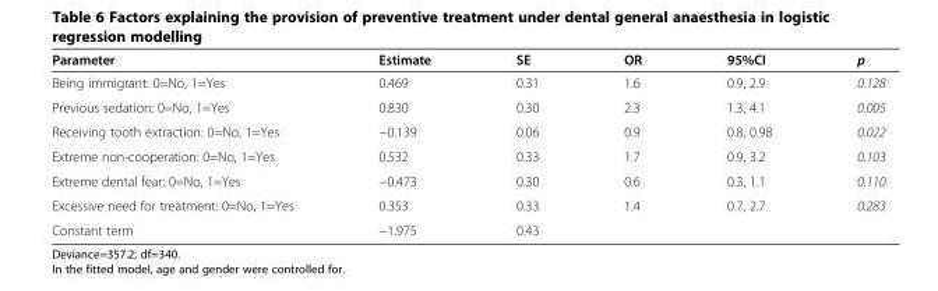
<table><thead><tr><td>Parameter</td><td>Estimate</td><td>SE</td><td>OR</td><td>95%CI</td><td>p</td></tr></thead><tbody><tr><td>Being immigrant: 0=No, 1=Yes</td><td>0.469</td><td>0.31</td><td>1.6</td><td>0.9, 2.9</td><td>0.128</td></tr><tr><td>Previous sedation: 0=No, 1=Yes</td><td>0.830</td><td>0.30</td><td>2.3</td><td>1.3, 4.1</td><td>0.005</td></tr><tr><td>Receiving tooth extraction: 0=No, 1=Yes</td><td>−0.139</td><td>0.06</td><td>0.9</td><td>0.8, 0.98</td><td>0.022</td></tr><tr><td>Extreme non-cooperation: 0=No, 1=Yes</td><td>0.532</td><td>0.33</td><td>1.7</td><td>0.9, 3.2</td><td>0.103</td></tr><tr><td>Extreme dental fear: 0=No, 1=Yes</td><td>−0.473</td><td>0.30</td><td>0.6</td><td>0.3, 1.1</td><td>0.110</td></tr><tr><td>Excessive need for treatment: 0=No, 1=Yes</td><td>0.353</td><td>0.33</td><td>1.4</td><td>0.7, 2.7</td><td>0.283</td></tr><tr><td>Constant term</td><td>−1.975</td><td>0.43</td><td></td><td></td><td></td></tr></tbody></table>